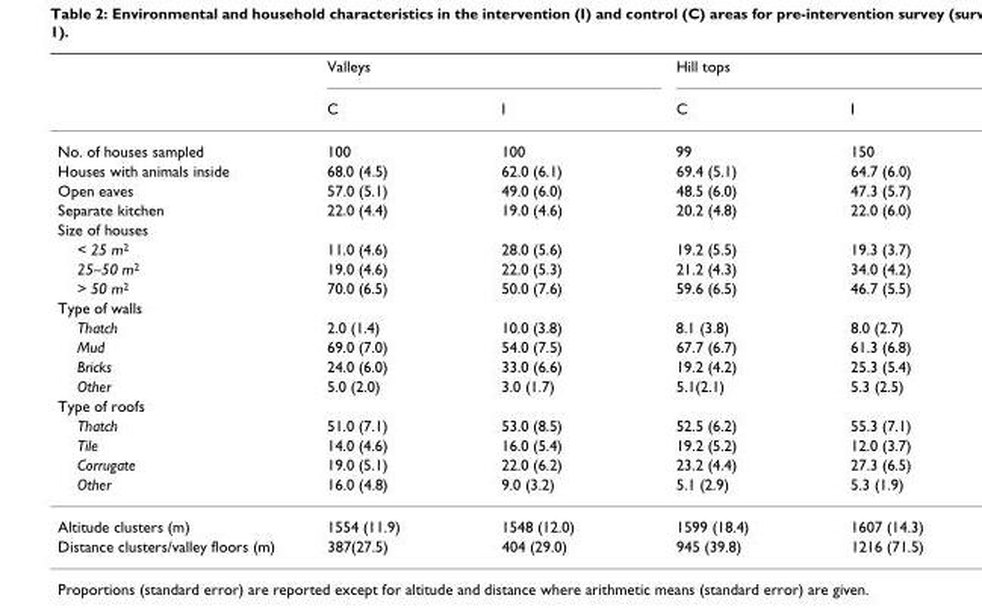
<table><thead><tr><td rowspan="2"></td><td colspan="2">Valleys</td><td colspan="2">Hill tops</td></tr><tr><td>C</td><td>I</td><td>C</td><td>I</td></tr></thead><tbody><tr><td>No. of houses sampled</td><td>100</td><td>100</td><td>99</td><td>150</td></tr><tr><td>Houses with animals inside</td><td>68.0 (4.5)</td><td>62.0 (6.1)</td><td>69.4 (5.1)</td><td>64.7 (6.0)</td></tr><tr><td>Open eaves</td><td>57.0 (5.1)</td><td>49.0 (6.0)</td><td>48.5 (6.0)</td><td>47.3 (5.7)</td></tr><tr><td>Separate kitchen</td><td>22.0 (4.4)</td><td>19.0 (4.6)</td><td>20.2 (4.8)</td><td>22.0 (6.0)</td></tr><tr><td colspan="5">Size of houses</td></tr><tr><td>&lt; 25 m<sup>2</sup></td><td>11.0 (4.6)</td><td>28.0 (5.6)</td><td>19.2 (5.5)</td><td>19.3 (3.7)</td></tr><tr><td>25–50 m<sup>2</sup></td><td>19.0 (4.6)</td><td>22.0 (5.3)</td><td>21.2 (4.3)</td><td>34.0 (4.2)</td></tr><tr><td>&gt; 50 m<sup>2</sup></td><td>70.0 (6.5)</td><td>50.0 (7.6)</td><td>59.6 (6.5)</td><td>46.7 (5.5)</td></tr><tr><td colspan="5">Type of walls</td></tr><tr><td>Thatch</td><td>2.0 (1.4)</td><td>10.0 (3.8)</td><td>8.1 (3.8)</td><td>8.0 (2.7)</td></tr><tr><td>Mud</td><td>69.0 (7.0)</td><td>54.0 (7.5)</td><td>67.7 (6.7)</td><td>61.3 (6.8)</td></tr><tr><td>Bricks</td><td>24.0 (6.0)</td><td>33.0 (6.6)</td><td>19.2 (4.2)</td><td>25.3 (5.4)</td></tr><tr><td>Other</td><td>5.0 (2.0)</td><td>3.0 (1.7)</td><td>5.1(2.1)</td><td>5.3 (2.5)</td></tr><tr><td colspan="5">Type of roofs</td></tr><tr><td>Thatch</td><td>51.0 (7.1)</td><td>53.0 (8.5)</td><td>52.5 (6.2)</td><td>55.3 (7.1)</td></tr><tr><td>Tile</td><td>14.0 (4.6)</td><td>16.0 (5.4)</td><td>19.2 (5.2)</td><td>12.0 (3.7)</td></tr><tr><td>Corrugate</td><td>19.0 (5.1)</td><td>22.0 (6.2)</td><td>23.2 (4.4)</td><td>27.3 (6.5)</td></tr><tr><td>Other</td><td>16.0 (4.8)</td><td>9.0 (3.2)</td><td>5.1 (2.9)</td><td>5.3 (1.9)</td></tr><tr><td>Altitude clusters (m)</td><td>1554 (11.9)</td><td>1548 (12.0)</td><td>1599 (18.4)</td><td>1607 (14.3)</td></tr><tr><td>Distance clusters/valley floors (m)</td><td>387(27.5)</td><td>404 (29.0)</td><td>945 (39.8)</td><td>1216 (71.5)</td></tr></tbody></table>